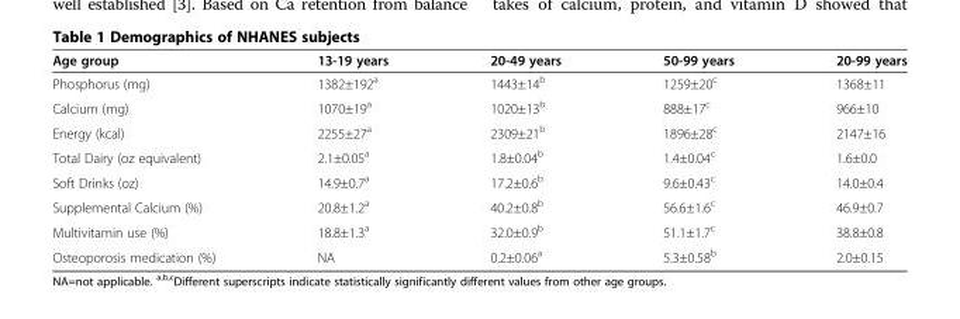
<table><thead><tr><td>Age group</td><td>13-19 years</td><td>20-49 years</td><td>50-99 years</td><td>20-99 years</td></tr></thead><tbody><tr><td>Phosphorus (mg)</td><td>1382±192<sup>a</sup></td><td>1443±14<sup>b</sup></td><td>1259±20<sup>c</sup></td><td>1368±11</td></tr><tr><td>Calcium (mg)</td><td>1070±19<sup>a</sup></td><td>1020±13<sup>b</sup></td><td>888±17<sup>c</sup></td><td>966±10</td></tr><tr><td>Energy (kcal)</td><td>2255±27<sup>a</sup></td><td>2309±21<sup>b</sup></td><td>1896±28<sup>c</sup></td><td>2147±16</td></tr><tr><td>Total Dairy (oz equivalent)</td><td>2.1±0.05<sup>a</sup></td><td>1.8±0.04<sup>b</sup></td><td>1.4±0.04<sup>c</sup></td><td>1.6±0.0</td></tr><tr><td>Soft Drinks (oz)</td><td>14.9±0.7<sup>a</sup></td><td>17.2±0.6<sup>b</sup></td><td>9.6±0.43<sup>c</sup></td><td>14.0±0.4</td></tr><tr><td>Supplemental Calcium (%)</td><td>20.8±1.2<sup>a</sup></td><td>40.2±0.8<sup>b</sup></td><td>56.6±1.6<sup>c</sup></td><td>46.9±0.7</td></tr><tr><td>Multivitamin use (%)</td><td>18.8±1.3<sup>a</sup></td><td>32.0±0.9<sup>b</sup></td><td>51.1±1.7<sup>c</sup></td><td>38.8±0.8</td></tr><tr><td>Osteoporosis medication (%)</td><td>NA</td><td>0.2±0.06<sup>a</sup></td><td>5.3±0.58<sup>b</sup></td><td>2.0±0.15</td></tr></tbody></table>